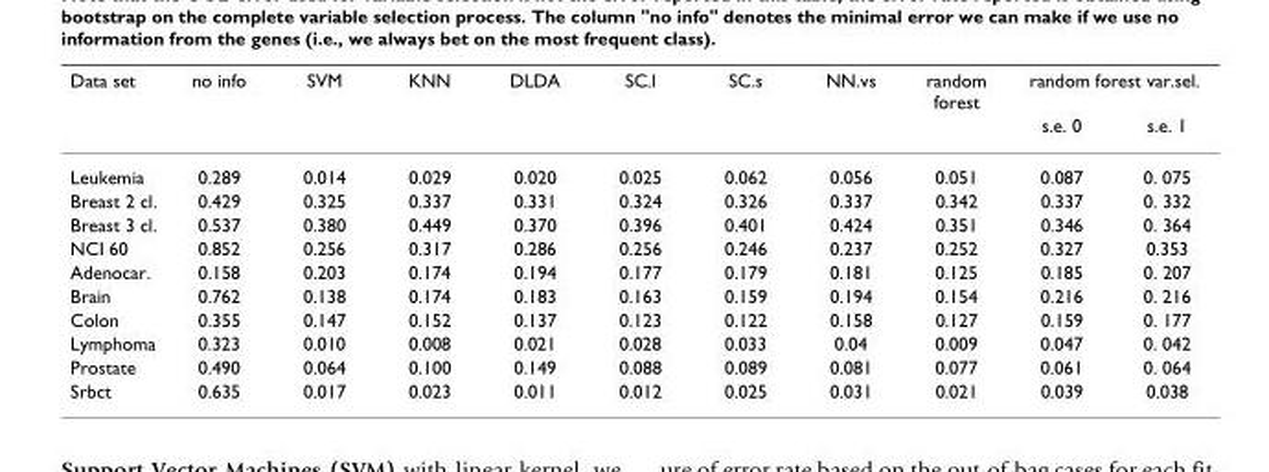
<table><thead><tr><td rowspan="2">Data set</td><td rowspan="2">no info</td><td rowspan="2">SVM</td><td rowspan="2">KNN</td><td rowspan="2">DLDA</td><td rowspan="2">SC.l</td><td rowspan="2">SC.s</td><td rowspan="2">NN.vs</td><td rowspan="2">random forest</td><td colspan="2">random forest var.sel.</td></tr><tr><td>s.e. 0</td><td>s.e. 1</td></tr></thead><tbody><tr><td>Leukemia</td><td>0.289</td><td>0.014</td><td>0.029</td><td>0.020</td><td>0.025</td><td>0.062</td><td>0.056</td><td>0.051</td><td>0.087</td><td>0. 075</td></tr><tr><td>Breast 2 cl.</td><td>0.429</td><td>0.325</td><td>0.337</td><td>0.331</td><td>0.324</td><td>0.326</td><td>0.337</td><td>0.342</td><td>0.337</td><td>0. 332</td></tr><tr><td>Breast 3 cl.</td><td>0.537</td><td>0.380</td><td>0.449</td><td>0.370</td><td>0.396</td><td>0.401</td><td>0.424</td><td>0.351</td><td>0.346</td><td>0. 364</td></tr><tr><td>NCI 60</td><td>0.852</td><td>0.256</td><td>0.317</td><td>0.286</td><td>0.256</td><td>0.246</td><td>0.237</td><td>0.252</td><td>0.327</td><td>0.353</td></tr><tr><td>Adenocar.</td><td>0.158</td><td>0.203</td><td>0.174</td><td>0.194</td><td>0.177</td><td>0.179</td><td>0.181</td><td>0.125</td><td>0.185</td><td>0. 207</td></tr><tr><td>Brain</td><td>0.762</td><td>0.138</td><td>0.174</td><td>0.183</td><td>0.163</td><td>0.159</td><td>0.194</td><td>0.154</td><td>0.216</td><td>0. 216</td></tr><tr><td>Colon</td><td>0.355</td><td>0.147</td><td>0.152</td><td>0.137</td><td>0.123</td><td>0.122</td><td>0.158</td><td>0.127</td><td>0.159</td><td>0. 177</td></tr><tr><td>Lymphoma</td><td>0.323</td><td>0.010</td><td>0.008</td><td>0.021</td><td>0.028</td><td>0.033</td><td>0.04</td><td>0.009</td><td>0.047</td><td>0. 042</td></tr><tr><td>Prostate</td><td>0.490</td><td>0.064</td><td>0.100</td><td>0.149</td><td>0.088</td><td>0.089</td><td>0.081</td><td>0.077</td><td>0.061</td><td>0. 064</td></tr><tr><td>Srbct</td><td>0.635</td><td>0.017</td><td>0.023</td><td>0.011</td><td>0.012</td><td>0.025</td><td>0.031</td><td>0.021</td><td>0.039</td><td>0.038</td></tr></tbody></table>